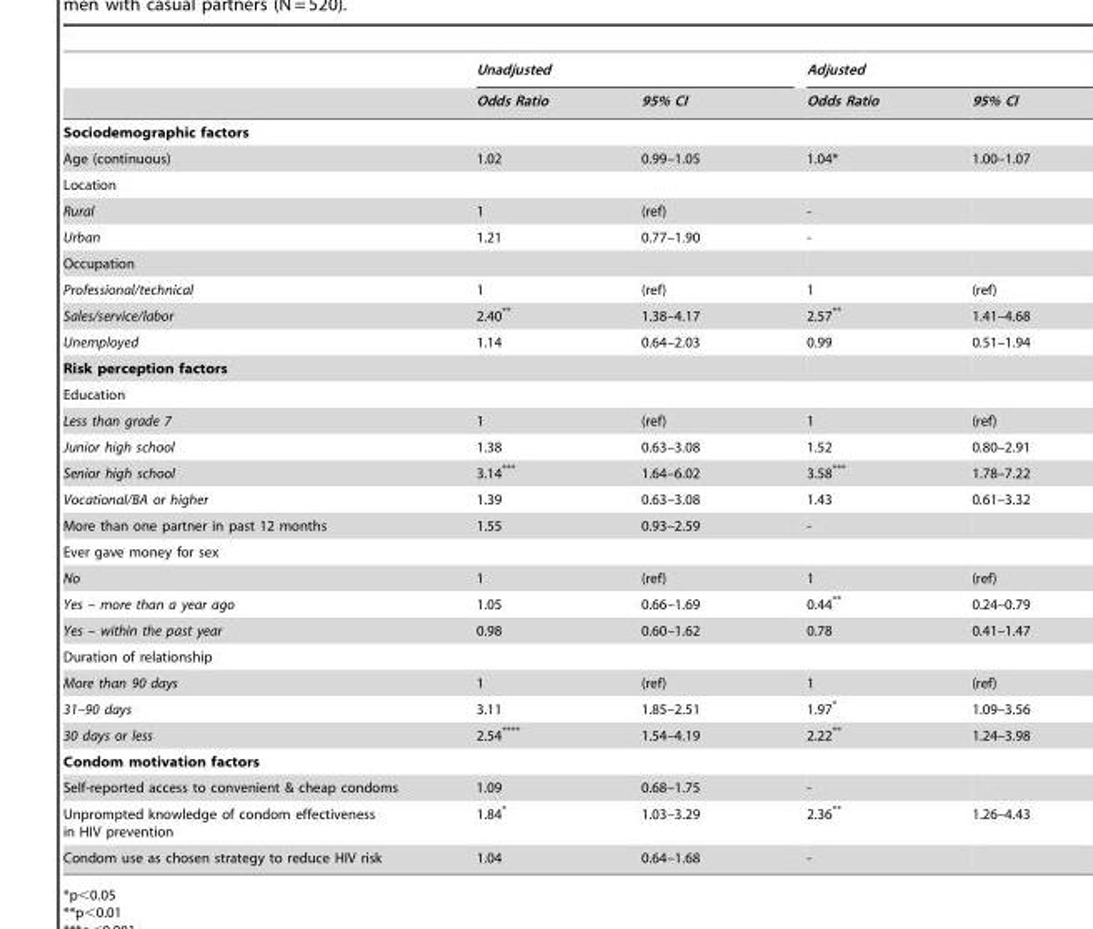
<table><thead><tr><td rowspan="2"></td><td colspan="2">Unadjusted</td><td colspan="2">Adjusted</td></tr><tr><td>Odds Ratio</td><td>95% CI</td><td>Odds Ratio</td><td>95% CI</td></tr></thead><tbody><tr><td colspan="5">Sociodemographic factors</td></tr><tr><td>Age (continuous)</td><td>1.02</td><td>0.99–1.05</td><td>1.04*</td><td>1.00–1.07</td></tr><tr><td colspan="5">Location</td></tr><tr><td>Rural</td><td>1</td><td>(ref)</td><td>-</td><td></td></tr><tr><td>Urban</td><td>1.21</td><td>0.77–1.90</td><td>-</td><td></td></tr><tr><td colspan="5">Occupation</td></tr><tr><td>Professional/technical</td><td>1</td><td>(ref)</td><td>1</td><td>(ref)</td></tr><tr><td>Sales/service/labor</td><td>2.40**</td><td>1.38–4.17</td><td>2.57**</td><td>1.41–4.68</td></tr><tr><td>Unemployed</td><td>1.14</td><td>0.64–2.03</td><td>0.99</td><td>0.51–1.94</td></tr><tr><td colspan="5">Risk perception factors</td></tr><tr><td colspan="5">Education</td></tr><tr><td>Less than grade 7</td><td>1</td><td>(ref)</td><td>1</td><td>(ref)</td></tr><tr><td>Junior high school</td><td>1.38</td><td>0.63–3.08</td><td>1.52</td><td>0.80–2.91</td></tr><tr><td>Senior high school</td><td>3.14***</td><td>1.64–6.02</td><td>3.58***</td><td>1.78–7.22</td></tr><tr><td>Vocational/BA or higher</td><td>1.39</td><td>0.63–3.08</td><td>1.43</td><td>0.61–3.32</td></tr><tr><td>More than one partner in past 12 months</td><td>1.55</td><td>0.93–2.59</td><td>-</td><td></td></tr><tr><td colspan="5">Ever gave money for sex</td></tr><tr><td>No</td><td>1</td><td>(ref)</td><td>1</td><td>(ref)</td></tr><tr><td>Yes – more than a year ago</td><td>1.05</td><td>0.66–1.69</td><td>0.44**</td><td>0.24–0.79</td></tr><tr><td>Yes – within the past year</td><td>0.98</td><td>0.60–1.62</td><td>0.78</td><td>0.41–1.47</td></tr><tr><td colspan="5">Duration of relationship</td></tr><tr><td>More than 90 days</td><td>1</td><td>(ref)</td><td>1</td><td>(ref)</td></tr><tr><td>31–90 days</td><td>3.11</td><td>1.85–2.51</td><td>1.97*</td><td>1.09–3.56</td></tr><tr><td>30 days or less</td><td>2.54****</td><td>1.54–4.19</td><td>2.22**</td><td>1.24–3.98</td></tr><tr><td colspan="5">Condom motivation factors</td></tr><tr><td>Self-reported access to convenient &amp; cheap condoms</td><td>1.09</td><td>0.68–1.75</td><td>-</td><td></td></tr><tr><td>Unprompted knowledge of condom effectiveness in HIV prevention</td><td>1.84*</td><td>1.03–3.29</td><td>2.36**</td><td>1.26–4.43</td></tr><tr><td>Condom use as chosen strategy to reduce HIV risk</td><td>1.04</td><td>0.64–1.68</td><td>-</td><td></td></tr></tbody></table>